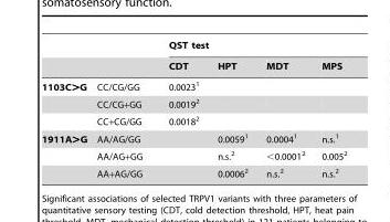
<table><thead><tr><td rowspan="2"></td><td rowspan="2"></td><td colspan="4">QST test</td></tr><tr><td>CDT</td><td>HPT</td><td>MDT</td><td>MPS</td></tr></thead><tbody><tr><td rowspan="3">1103C&gt;G</td><td>CC/CG/GG</td><td>0.0023<sup>1</sup></td><td></td><td></td><td></td></tr><tr><td>CC/CG+GG</td><td>0.0019<sup>2</sup></td><td></td><td></td><td></td></tr><tr><td>CC+CG/GG</td><td>0.0018<sup>2</sup></td><td></td><td></td><td></td></tr><tr><td rowspan="3">1911A&gt;G</td><td>AA/AG/GG</td><td></td><td>0.0059<sup>1</sup></td><td>0.0004<sup>1</sup></td><td>n.s.<sup>1</sup></td></tr><tr><td>AA/AG+GG</td><td></td><td>n.s.<sup>2</sup></td><td>&lt;0.0001<sup>2</sup></td><td>0.005<sup>2</sup></td></tr><tr><td>AA+AG/GG</td><td></td><td>0.0006<sup>2</sup></td><td>n.s.<sup>2</sup></td><td>n.s.<sup>2</sup></td></tr></tbody></table>